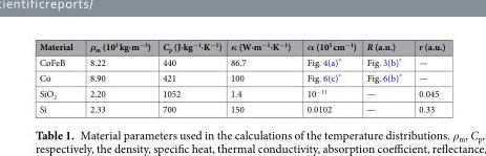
<table><thead><tr><td>Material</td><td>ρ<sub>m</sub> (10<sup>3</sup> kg∙m<sup>−3</sup>)</td><td>C<sub>p</sub> (J∙kg<sup>−1</sup>∙K<sup>−1</sup>)</td><td>κ (W∙m<sup>−1</sup>∙K<sup>−1</sup>)</td><td>α (10<sup>5</sup> cm<sup>−1</sup>)</td><td>R (a.u.)</td><td>r (a.u.)</td></tr></thead><tbody><tr><td>CoFeB</td><td>8.22</td><td>440</td><td>86.7</td><td>Fig. 4(a)*</td><td>Fig. 3(b)*</td><td>—</td></tr><tr><td>Co</td><td>8.90</td><td>421</td><td>100</td><td>Fig. 6(c)*</td><td>Fig. 6(b)*</td><td>—</td></tr><tr><td>SiO<sub>2</sub></td><td>2.20</td><td>1052</td><td>1.4</td><td>10<sup>−11</sup></td><td>—</td><td>0.045</td></tr><tr><td>Si</td><td>2.33</td><td>700</td><td>150</td><td>0.0102</td><td>—</td><td>0.33</td></tr></tbody></table>